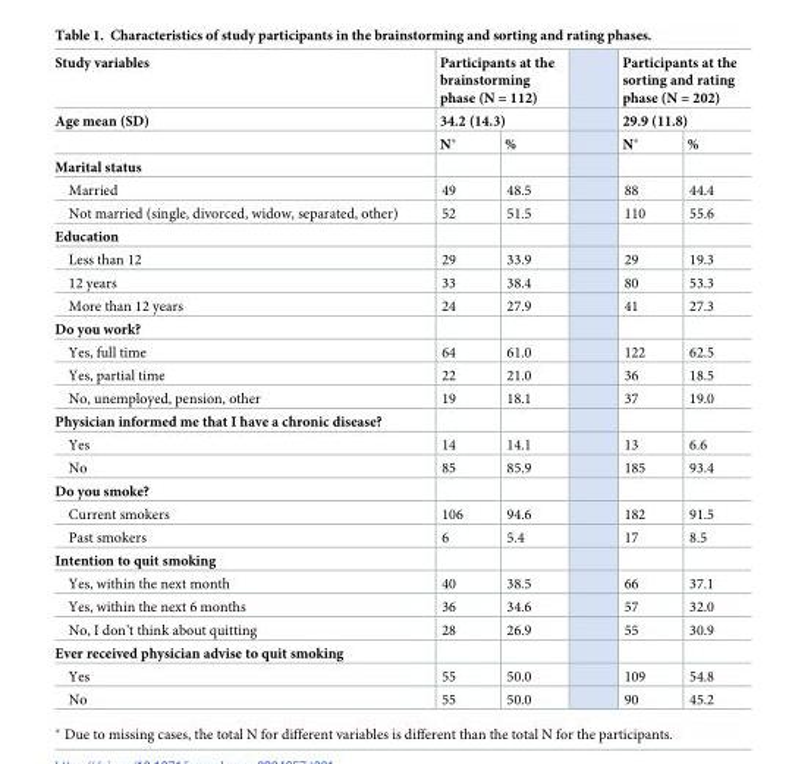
<table><thead><tr><td rowspan="3">Study variables Age mean (SD)</td><td rowspan="2" colspan="2">Participants at the brainstorming phase (N = 112) 34.2 (14.3)</td><td rowspan="2" colspan="2">Participants at the sorting and rating phase (N = 202) 29.9 (11.8)</td></tr><tr></tr><tr><td>N*</td><td>%</td><td>N*</td><td>%</td></tr></thead><tbody><tr><td colspan="5">Marital status</td></tr><tr><td>Married</td><td>49</td><td>48.5</td><td>88</td><td>44.4</td></tr><tr><td>Not married (single, divorced, widow, separated, other)</td><td>52</td><td>51.5</td><td>110</td><td>55.6</td></tr><tr><td colspan="5">Education</td></tr><tr><td>Less than 12</td><td>29</td><td>33.9</td><td>29</td><td>19.3</td></tr><tr><td>12 years</td><td>33</td><td>38.4</td><td>80</td><td>53.3</td></tr><tr><td>More than 12 years</td><td>24</td><td>27.9</td><td>41</td><td>27.3</td></tr><tr><td colspan="5">Do you work?</td></tr><tr><td>Yes, full time</td><td>64</td><td>61.0</td><td>122</td><td>62.5</td></tr><tr><td>Yes, partial time</td><td>22</td><td>21.0</td><td>36</td><td>18.5</td></tr><tr><td>No, unemployed, pension, other</td><td>19</td><td>18.1</td><td>37</td><td>19.0</td></tr><tr><td colspan="5">Physician informed me that I have a chronic disease?</td></tr><tr><td>Yes</td><td>14</td><td>14.1</td><td>13</td><td>6.6</td></tr><tr><td>No</td><td>85</td><td>85.9</td><td>185</td><td>93.4</td></tr><tr><td colspan="5">Do you smoke?</td></tr><tr><td>Current smokers</td><td>106</td><td>94.6</td><td>182</td><td>91.5</td></tr><tr><td>Past smokers</td><td>6</td><td>5.4</td><td>17</td><td>8.5</td></tr><tr><td colspan="5">Intention to quit smoking</td></tr><tr><td>Yes, within the next month</td><td>40</td><td>38.5</td><td>66</td><td>37.1</td></tr><tr><td>Yes, within the next 6 months</td><td>36</td><td>34.6</td><td>57</td><td>32.0</td></tr><tr><td>No, I don’t think about quitting</td><td>28</td><td>26.9</td><td>55</td><td>30.9</td></tr><tr><td colspan="5">Ever received physician advise to quit smoking</td></tr><tr><td>Yes</td><td>55</td><td>50.0</td><td>109</td><td>54.8</td></tr><tr><td>No</td><td>55</td><td>50.0</td><td>90</td><td>45.2</td></tr></tbody></table>